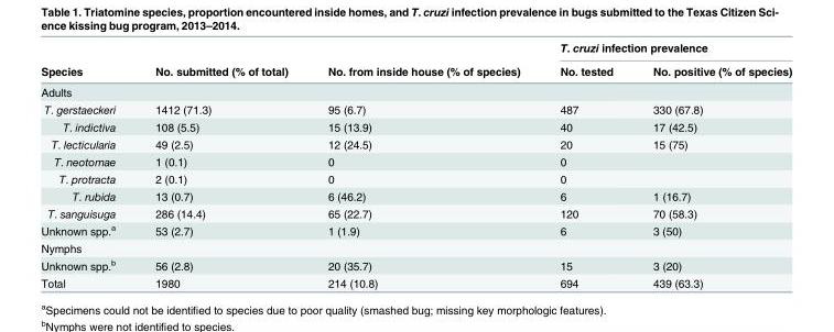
<table><thead><tr><td rowspan="2">Species</td><td rowspan="2">No. submitted (% of total)</td><td rowspan="2">No. from inside house (% of species)</td><td colspan="2">T. cruzi infection prevalence</td></tr><tr><td>No. tested</td><td>No. positive (% of species)</td></tr></thead><tbody><tr><td colspan="5">Adults</td></tr><tr><td>T. gerstaeckeri</td><td>1412 (71.3)</td><td>95 (6.7)</td><td>487</td><td>330 (67.8)</td></tr><tr><td>T. indictiva</td><td>108 (5.5)</td><td>15 (13.9)</td><td>40</td><td>17 (42.5)</td></tr><tr><td>T. lecticularia</td><td>49 (2.5)</td><td>12 (24.5)</td><td>20</td><td>15 (75)</td></tr><tr><td>T. neotomae</td><td>1 (0.1)</td><td>0</td><td>0</td><td></td></tr><tr><td>T. protracta</td><td>2 (0.1)</td><td>0</td><td>0</td><td></td></tr><tr><td>T. rubida</td><td>13 (0.7)</td><td>6 (46.2)</td><td>6</td><td>1 (16.7)</td></tr><tr><td>T. sanguisuga</td><td>286 (14.4)</td><td>65 (22.7)</td><td>120</td><td>70 (58.3)</td></tr><tr><td>Unknown spp.<sup>a</sup></td><td>53 (2.7)</td><td>1 (1.9)</td><td>6</td><td>3 (50)</td></tr><tr><td colspan="5">Nymphs</td></tr><tr><td>Unknown spp.<sup>b</sup></td><td>56 (2.8)</td><td>20 (35.7)</td><td>15</td><td>3 (20)</td></tr><tr><td>Total</td><td>1980</td><td>214 (10.8)</td><td>694</td><td>439 (63.3)</td></tr></tbody></table>